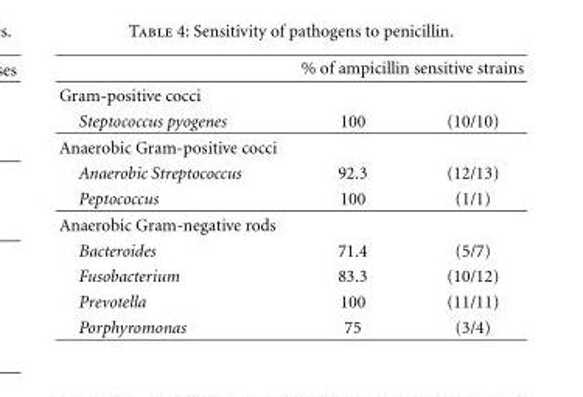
<table><thead><tr><td rowspan="2">Gram-positive cocci</td><td colspan="2">% of ampicillin sensitive strains</td></tr><tr><td></td><td></td></tr></thead><tbody><tr><td>Steptococcus pyogenes</td><td>100</td><td>(10/10)</td></tr><tr><td colspan="3">Anaerobic Gram-positive cocci</td></tr><tr><td>Anaerobic Streptococcus</td><td>92.3</td><td>(12/13)</td></tr><tr><td>Peptococcus</td><td>100</td><td>(1/1)</td></tr><tr><td colspan="3">Anaerobic Gram-negative rods</td></tr><tr><td>Bacteroides</td><td>71.4</td><td>(5/7)</td></tr><tr><td>Fusobacterium</td><td>83.3</td><td>(10/12)</td></tr><tr><td>Prevotella</td><td>100</td><td>(11/11)</td></tr><tr><td>Porphyromonas</td><td>75</td><td>(3/4)</td></tr></tbody></table>